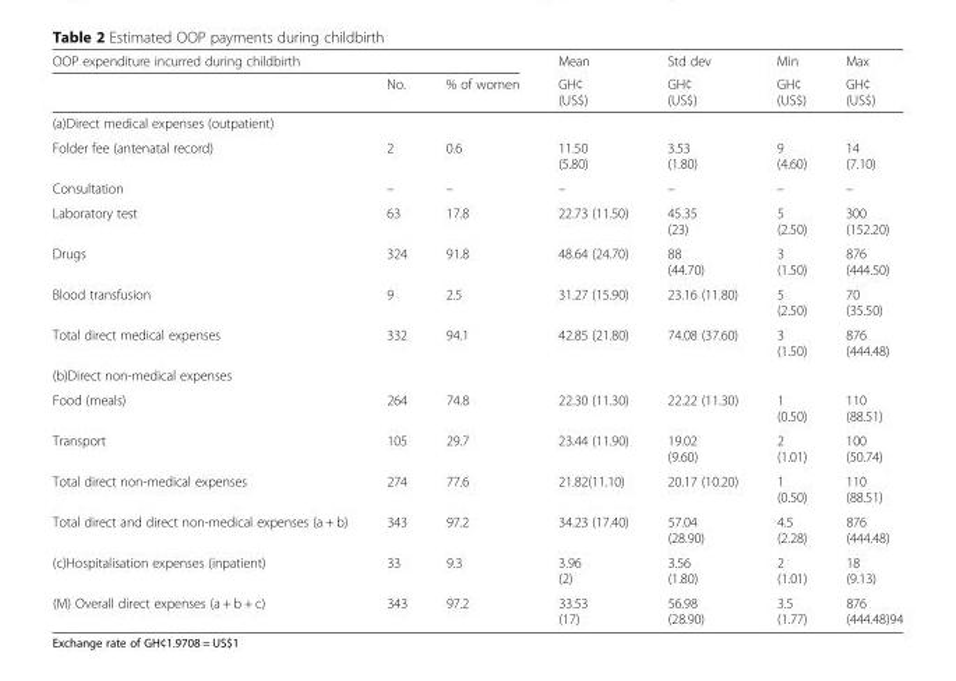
<table><thead><tr><td colspan="3">OOP expenditure incurred during childbirth</td><td rowspan="2">Mean GH¢ (US$)</td><td rowspan="2">Std dev GH¢ (US$)</td><td rowspan="2">Min GH¢ (US$)</td><td rowspan="2">Max GH¢ (US$)</td></tr><tr><td></td><td>No.</td><td>% of women</td></tr></thead><tbody><tr><td colspan="7">(a)Direct medical expenses (outpatient)</td></tr><tr><td>Folder fee (antenatal record)</td><td>2</td><td>0.6</td><td>11.50 (5.80)</td><td>3.53 (1.80)</td><td>9 (4.60)</td><td>14 (7.10)</td></tr><tr><td>Consultation</td><td>–</td><td>–</td><td>–</td><td>–</td><td>–</td><td>–</td></tr><tr><td>Laboratory test</td><td>63</td><td>17.8</td><td>22.73 (11.50)</td><td>45.35 (23)</td><td>5 (2.50)</td><td>300 (152.20)</td></tr><tr><td>Drugs</td><td>324</td><td>91.8</td><td>48.64 (24.70)</td><td>88 (44.70)</td><td>3 (1.50)</td><td>876 (444.50)</td></tr><tr><td>Blood transfusion</td><td>9</td><td>2.5</td><td>31.27 (15.90)</td><td>23.16 (11.80)</td><td>5 (2.50)</td><td>70 (35.50)</td></tr><tr><td>Total direct medical expenses</td><td>332</td><td>94.1</td><td>42.85 (21.80)</td><td>74.08 (37.60)</td><td>3 (1.50)</td><td>876 (444.48)</td></tr><tr><td colspan="7">(b)Direct non-medical expenses</td></tr><tr><td>Food (meals)</td><td>264</td><td>74.8</td><td>22.30 (11.30)</td><td>22.22 (11.30)</td><td>1 (0.50)</td><td>110 (88.51)</td></tr><tr><td>Transport</td><td>105</td><td>29.7</td><td>23.44 (11.90)</td><td>19.02 (9.60)</td><td>2 (1.01)</td><td>100 (50.74)</td></tr><tr><td>Total direct non-medical expenses</td><td>274</td><td>77.6</td><td>21.82(11.10)</td><td>20.17 (10.20)</td><td>1 (0.50)</td><td>110 (88.51)</td></tr><tr><td>Total direct and direct non-medical expenses (a + b)</td><td>343</td><td>97.2</td><td>34.23 (17.40)</td><td>57.04 (28.90)</td><td>4.5 (2.28)</td><td>876 (444.48)</td></tr><tr><td>(c)Hospitalisation expenses (inpatient)</td><td>33</td><td>9.3</td><td>3.96 (2)</td><td>3.56 (1.80)</td><td>2 (1.01)</td><td>18 (9.13)</td></tr><tr><td>(M) Overall direct expenses (a + b + c)</td><td>343</td><td>97.2</td><td>33.53 (17)</td><td>56.98 (28.90)</td><td>3.5 (1.77)</td><td>876 (444.48)94</td></tr></tbody></table>